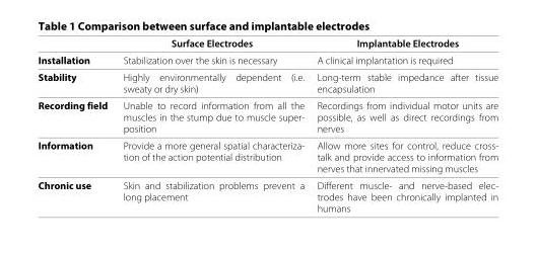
<table><thead><tr><td></td><td>Surface Electrodes</td><td>Implantable Electrodes</td></tr></thead><tbody><tr><td>Installation</td><td>Stabilization over the skin is necessary</td><td>A clinical implantation is required</td></tr><tr><td>Stability</td><td>Highly environmentally dependent (i.e. sweaty or dry skin)</td><td>Long-term stable impedance after tissue encapsulation</td></tr><tr><td>Recording field</td><td>Unable to record information from all the muscles in the stump due to muscle super- position</td><td>Recordings from individual motor units are possible, as well as direct recordings from nerves</td></tr><tr><td>Information</td><td>Provide a more general spatial characteriza- tion of the action potential distribution</td><td>Allow more sites for control, reduce cross- talk and provide access to information from nerves that innervated missing muscles</td></tr><tr><td>Chronic use</td><td>Skin and stabilization problems prevent a long placement</td><td>Different muscle- and nerve-based elec- trodes have been chronically implanted in humans</td></tr></tbody></table>